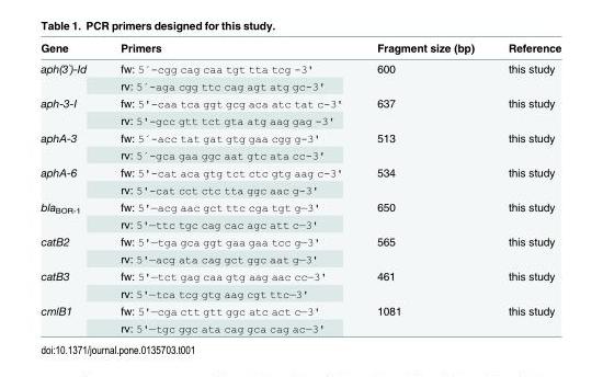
<table><thead><tr><td>Gene</td><td>Primers</td><td>Fragment size (bp)</td><td>Reference</td></tr></thead><tbody><tr><td rowspan="2">aph(3`)-Id</td><td>fw: 5´-cgg cag caa tgt tta tcg -3&#x27;</td><td rowspan="2">600</td><td rowspan="2">this study</td></tr><tr><td>rv: 5´-aga cgg ttc cag agt atg gc-3&#x27;</td></tr><tr><td rowspan="2">aph-3-I</td><td>fw: 5&#x27;-caa tca ggt gcg aca atc tat c-3&#x27;</td><td rowspan="2">637</td><td rowspan="2">this study</td></tr><tr><td>rv: 5&#x27;-gcc gtt tct gta atg aag gag -3&#x27;</td></tr><tr><td rowspan="2">aphA-3</td><td>fw: 5´-acc tat gat gtg gaa cgg g-3&#x27;</td><td rowspan="2">513</td><td rowspan="2">this study</td></tr><tr><td>rv: 5´-gca gaa ggc aat gtc ata cc-3&#x27;</td></tr><tr><td rowspan="2">aphA-6</td><td>fw: 5&#x27;-cat aca gtg tct ctc gtg aag c-3&#x27;</td><td rowspan="2">534</td><td rowspan="2">this study</td></tr><tr><td>rv: 5&#x27;-cat cct ctc tta ggc aac g-3&#x27;</td></tr><tr><td rowspan="2">bla<sub>BOR-1</sub></td><td>fw: 5&#x27;—acg aac gct ttc cga tgt g—3&#x27;</td><td rowspan="2">650</td><td rowspan="2">this study</td></tr><tr><td>rv: 5&#x27;—ttc tgc cag cac agc att c—3&#x27;</td></tr><tr><td rowspan="2">catB2</td><td>fw: 5&#x27;—tga gca ggt gaa gaa tcc g—3&#x27;</td><td rowspan="2">565</td><td rowspan="2">this study</td></tr><tr><td>rv: 5&#x27;—acg ata cag gct ggc aat g—3&#x27;</td></tr><tr><td rowspan="2">catB3</td><td>fw: 5&#x27;—tct gag caa gtg aag aac cc—3&#x27;</td><td rowspan="2">461</td><td rowspan="2">this study</td></tr><tr><td>rv: 5&#x27;—tca tcg gtg aag cgt ttc—3&#x27;</td></tr><tr><td rowspan="2">cmlB1</td><td>fw: 5&#x27;—cga ctt gtt ggc atc act c—3&#x27;</td><td rowspan="2">1081</td><td rowspan="2">this study</td></tr><tr><td>rv: 5&#x27;—tgc ggc ata cag gca cag ac—3&#x27;</td></tr></tbody></table>